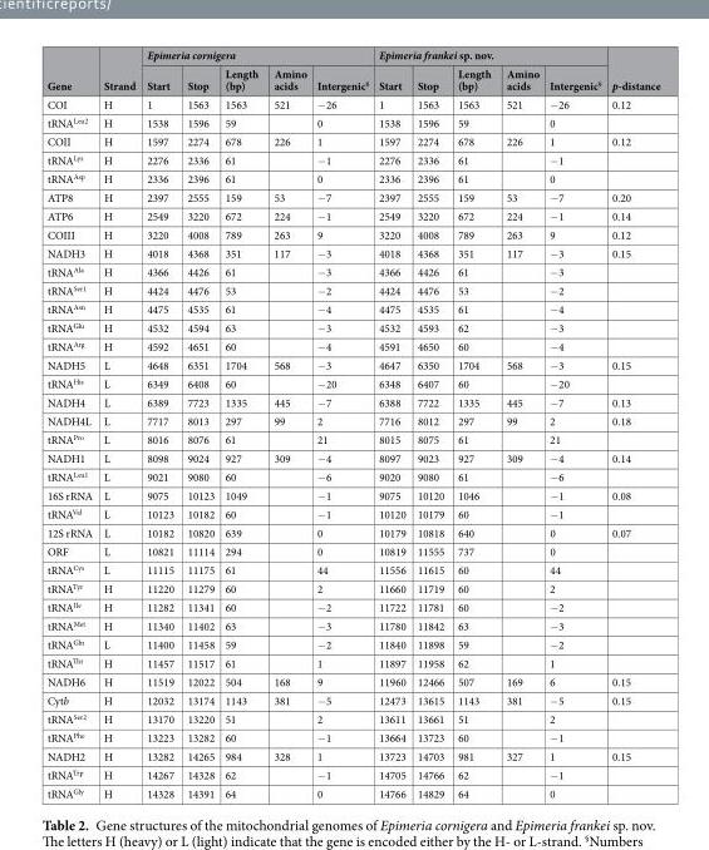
<table><thead><tr><td rowspan="2">Gene</td><td rowspan="2">Strand</td><td colspan="5">Epimeria cornigera</td><td colspan="5">Epimeria frankei sp. nov.</td><td rowspan="2">p-distance</td></tr><tr><td>Start</td><td>Stop</td><td>Length (bp)</td><td>Amino acids</td><td>Intergenic<sup>§</sup></td><td>Start</td><td>Stop</td><td>Length (bp)</td><td>Amino acids</td><td>Intergenic<sup>§</sup></td></tr></thead><tbody><tr><td>COI</td><td>H</td><td>1</td><td>1563</td><td>1563</td><td>521</td><td>−26</td><td>1</td><td>1563</td><td>1563</td><td>521</td><td>−26</td><td>0.12</td></tr><tr><td>tRNA<sup>Leu2</sup></td><td>H</td><td>1538</td><td>1596</td><td>59</td><td></td><td>0</td><td>1538</td><td>1596</td><td>59</td><td></td><td>0</td><td></td></tr><tr><td>COII</td><td>H</td><td>1597</td><td>2274</td><td>678</td><td>226</td><td>1</td><td>1597</td><td>2274</td><td>678</td><td>226</td><td>1</td><td>0.12</td></tr><tr><td>tRNA<sup>Lys</sup></td><td>H</td><td>2276</td><td>2336</td><td>61</td><td></td><td>−1</td><td>2276</td><td>2336</td><td>61</td><td></td><td>−1</td><td></td></tr><tr><td>tRNA<sup>Asp</sup></td><td>H</td><td>2336</td><td>2396</td><td>61</td><td></td><td>0</td><td>2336</td><td>2396</td><td>61</td><td></td><td>0</td><td></td></tr><tr><td>ATP8</td><td>H</td><td>2397</td><td>2555</td><td>159</td><td>53</td><td>−7</td><td>2397</td><td>2555</td><td>159</td><td>53</td><td>−7</td><td>0.20</td></tr><tr><td>ATP6</td><td>H</td><td>2549</td><td>3220</td><td>672</td><td>224</td><td>−1</td><td>2549</td><td>3220</td><td>672</td><td>224</td><td>−1</td><td>0.14</td></tr><tr><td>COIII</td><td>H</td><td>3220</td><td>4008</td><td>789</td><td>263</td><td>9</td><td>3220</td><td>4008</td><td>789</td><td>263</td><td>9</td><td>0.12</td></tr><tr><td>NADH3</td><td>H</td><td>4018</td><td>4368</td><td>351</td><td>117</td><td>−3</td><td>4018</td><td>4368</td><td>351</td><td>117</td><td>−3</td><td>0.15</td></tr><tr><td>tRNA<sup>Ala</sup></td><td>H</td><td>4366</td><td>4426</td><td>61</td><td></td><td>−3</td><td>4366</td><td>4426</td><td>61</td><td></td><td>−3</td><td></td></tr><tr><td>tRNA<sup>Ser1</sup></td><td>H</td><td>4424</td><td>4476</td><td>53</td><td></td><td>−2</td><td>4424</td><td>4476</td><td>53</td><td></td><td>−2</td><td></td></tr><tr><td>tRNA<sup>Asn</sup></td><td>H</td><td>4475</td><td>4535</td><td>61</td><td></td><td>−4</td><td>4475</td><td>4535</td><td>61</td><td></td><td>−4</td><td></td></tr><tr><td>tRNA<sup>Glu</sup></td><td>H</td><td>4532</td><td>4594</td><td>63</td><td></td><td>−3</td><td>4532</td><td>4593</td><td>62</td><td></td><td>−3</td><td></td></tr><tr><td>tRNA<sup>Arg</sup></td><td>H</td><td>4592</td><td>4651</td><td>60</td><td></td><td>−4</td><td>4591</td><td>4650</td><td>60</td><td></td><td>−4</td><td></td></tr><tr><td>NADH5</td><td>L</td><td>4648</td><td>6351</td><td>1704</td><td>568</td><td>−3</td><td>4647</td><td>6350</td><td>1704</td><td>568</td><td>−3</td><td>0.15</td></tr><tr><td>tRNA<sup>His</sup></td><td>L</td><td>6349</td><td>6408</td><td>60</td><td></td><td>−20</td><td>6348</td><td>6407</td><td>60</td><td></td><td>−20</td><td></td></tr><tr><td>NADH4</td><td>L</td><td>6389</td><td>7723</td><td>1335</td><td>445</td><td>−7</td><td>6388</td><td>7722</td><td>1335</td><td>445</td><td>−7</td><td>0.13</td></tr><tr><td>NADH4L</td><td>L</td><td>7717</td><td>8013</td><td>297</td><td>99</td><td>2</td><td>7716</td><td>8012</td><td>297</td><td>99</td><td>2</td><td>0.18</td></tr><tr><td>tRNA<sup>Pro</sup></td><td>L</td><td>8016</td><td>8076</td><td>61</td><td></td><td>21</td><td>8015</td><td>8075</td><td>61</td><td></td><td>21</td><td></td></tr><tr><td>NADH1</td><td>L</td><td>8098</td><td>9024</td><td>927</td><td>309</td><td>−4</td><td>8097</td><td>9023</td><td>927</td><td>309</td><td>−4</td><td>0.14</td></tr><tr><td>tRNA<sup>Leu1</sup></td><td>L</td><td>9021</td><td>9080</td><td>60</td><td></td><td>−6</td><td>9020</td><td>9080</td><td>61</td><td></td><td>−6</td><td></td></tr><tr><td>16S rRNA</td><td>L</td><td>9075</td><td>10123</td><td>1049</td><td></td><td>−1</td><td>9075</td><td>10120</td><td>1046</td><td></td><td>−1</td><td>0.08</td></tr><tr><td>tRNA<sup>Val</sup></td><td>L</td><td>10123</td><td>10182</td><td>60</td><td></td><td>−1</td><td>10120</td><td>10179</td><td>60</td><td></td><td>−1</td><td></td></tr><tr><td>12S rRNA</td><td>L</td><td>10182</td><td>10820</td><td>639</td><td></td><td>0</td><td>10179</td><td>10818</td><td>640</td><td></td><td>0</td><td>0.07</td></tr><tr><td>ORF</td><td>L</td><td>10821</td><td>11114</td><td>294</td><td></td><td>0</td><td>10819</td><td>11555</td><td>737</td><td></td><td>0</td><td></td></tr><tr><td>tRNA<sup>Cys</sup></td><td>L</td><td>11115</td><td>11175</td><td>61</td><td></td><td>44</td><td>11556</td><td>11615</td><td>60</td><td></td><td>44</td><td></td></tr><tr><td>tRNA<sup>Tyr</sup></td><td>H</td><td>11220</td><td>11279</td><td>60</td><td></td><td>2</td><td>11660</td><td>11719</td><td>60</td><td></td><td>2</td><td></td></tr><tr><td>tRNA<sup>Ile</sup></td><td>H</td><td>11282</td><td>11341</td><td>60</td><td></td><td>−2</td><td>11722</td><td>11781</td><td>60</td><td></td><td>−2</td><td></td></tr><tr><td>tRNA<sup>Met</sup></td><td>H</td><td>11340</td><td>11402</td><td>63</td><td></td><td>−3</td><td>11780</td><td>11842</td><td>63</td><td></td><td>−3</td><td></td></tr><tr><td>tRNA<sup>Gln</sup></td><td>L</td><td>11400</td><td>11458</td><td>59</td><td></td><td>−2</td><td>11840</td><td>11898</td><td>59</td><td></td><td>−2</td><td></td></tr><tr><td>tRNA<sup>Thr</sup></td><td>H</td><td>11457</td><td>11517</td><td>61</td><td></td><td>1</td><td>11897</td><td>11958</td><td>62</td><td></td><td>1</td><td></td></tr><tr><td>NADH6</td><td>H</td><td>11519</td><td>12022</td><td>504</td><td>168</td><td>9</td><td>11960</td><td>12466</td><td>507</td><td>169</td><td>6</td><td>0.15</td></tr><tr><td>Cytb</td><td>H</td><td>12032</td><td>13174</td><td>1143</td><td>381</td><td>−5</td><td>12473</td><td>13615</td><td>1143</td><td>381</td><td>−5</td><td>0.15</td></tr><tr><td>tRNA<sup>Ser2</sup></td><td>H</td><td>13170</td><td>13220</td><td>51</td><td></td><td>2</td><td>13611</td><td>13661</td><td>51</td><td></td><td>2</td><td></td></tr><tr><td>tRNA<sup>Phe</sup></td><td>H</td><td>13223</td><td>13282</td><td>60</td><td></td><td>−1</td><td>13664</td><td>13723</td><td>60</td><td></td><td>−1</td><td></td></tr><tr><td>NADH2</td><td>H</td><td>13282</td><td>14265</td><td>984</td><td>328</td><td>1</td><td>13723</td><td>14703</td><td>981</td><td>327</td><td>1</td><td>0.15</td></tr><tr><td>tRNA<sup>Trp</sup></td><td>H</td><td>14267</td><td>14328</td><td>62</td><td></td><td>−1</td><td>14705</td><td>14766</td><td>62</td><td></td><td>−1</td><td></td></tr><tr><td>tRNA<sup>Gly</sup></td><td>H</td><td>14328</td><td>14391</td><td>64</td><td></td><td>0</td><td>14766</td><td>14829</td><td>64</td><td></td><td>0</td><td></td></tr></tbody></table>